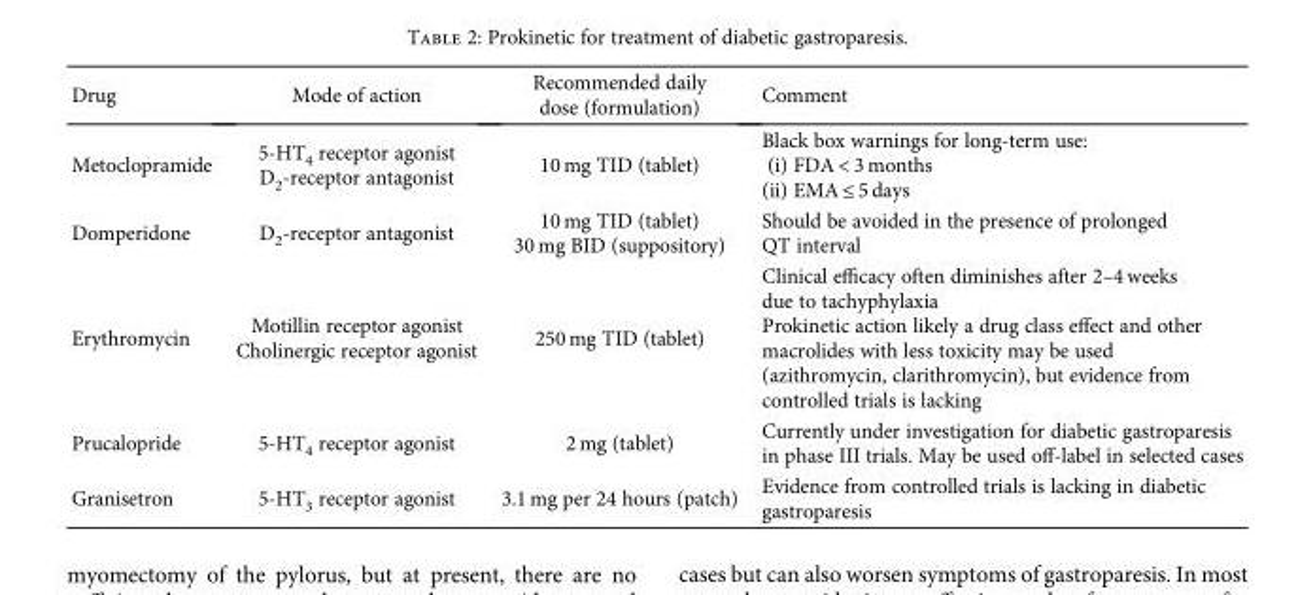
<table><thead><tr><td>Drug</td><td>Mode of action</td><td>Recommended daily dose (formulation)</td><td>Comment</td></tr></thead><tbody><tr><td>Metoclopramide</td><td>5-HT<sub>4</sub> receptor agonist D<sub>2</sub>-receptor antagonist</td><td>10 mg TID (tablet)</td><td>Black box warnings for long-term use: (i) FDA &lt; 3 months (ii) EMA ≤ 5 days</td></tr><tr><td>Domperidone</td><td>D<sub>2</sub>-receptor antagonist</td><td>10 mg TID (tablet) 30 mg BID (suppository)</td><td>Should be avoided in the presence of prolonged QT interval</td></tr><tr><td>Erythromycin</td><td>Motillin receptor agonist Cholinergic receptor agonist</td><td>250 mg TID (tablet)</td><td>Clinical efficacy often diminishes after 2–4 weeks due to tachyphylaxia Prokinetic action likely a drug class effect and other macrolides with less toxicity may be used (azithromycin, clarithromycin), but evidence from controlled trials is lacking</td></tr><tr><td>Prucalopride</td><td>5-HT<sub>4</sub> receptor agonist</td><td>2 mg (tablet)</td><td>Currently under investigation for diabetic gastroparesis in phase III trials. May be used off-label in selected cases</td></tr><tr><td>Granisetron</td><td>5-HT<sub>3</sub> receptor agonist</td><td>3.1 mg per 24 hours (patch)</td><td>Evidence from controlled trials is lacking in diabetic gastroparesis</td></tr></tbody></table>